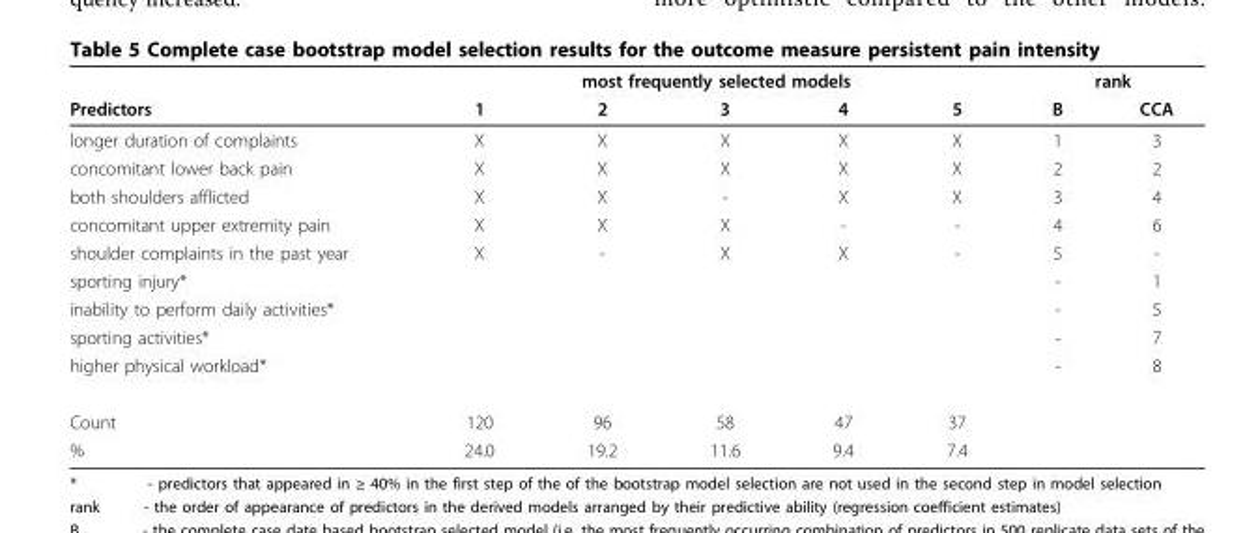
<table><thead><tr><td rowspan="2">Predictors</td><td colspan="5">most frequently selected models</td><td colspan="2">rank</td></tr><tr><td>1</td><td>2</td><td>3</td><td>4</td><td>5</td><td>B</td><td>CCA</td></tr></thead><tbody><tr><td>longer duration of complaints</td><td>X</td><td>X</td><td>X</td><td>X</td><td>X</td><td>1</td><td>3</td></tr><tr><td>concomitant lower back pain</td><td>X</td><td>X</td><td>X</td><td>X</td><td>X</td><td>2</td><td>2</td></tr><tr><td>both shoulders afflicted</td><td>X</td><td>X</td><td>-</td><td>X</td><td>X</td><td>3</td><td>4</td></tr><tr><td>concomitant upper extremity pain</td><td>X</td><td>X</td><td>X</td><td>-</td><td>-</td><td>4</td><td>6</td></tr><tr><td>shoulder complaints in the past year</td><td>X</td><td>-</td><td>X</td><td>X</td><td>-</td><td>5</td><td>-</td></tr><tr><td>sporting injury*</td><td></td><td></td><td></td><td></td><td></td><td>-</td><td>1</td></tr><tr><td>inability to perform daily activities*</td><td></td><td></td><td></td><td></td><td></td><td>-</td><td>5</td></tr><tr><td>sporting activities*</td><td></td><td></td><td></td><td></td><td></td><td>-</td><td>7</td></tr><tr><td>higher physical workload*</td><td></td><td></td><td></td><td></td><td></td><td>-</td><td>8</td></tr><tr><td>Count</td><td>120</td><td>96</td><td>58</td><td>47</td><td>37</td><td></td><td></td></tr><tr><td>%</td><td>24.0</td><td>19.2</td><td>11.6</td><td>9.4</td><td>7.4</td><td></td><td></td></tr></tbody></table>